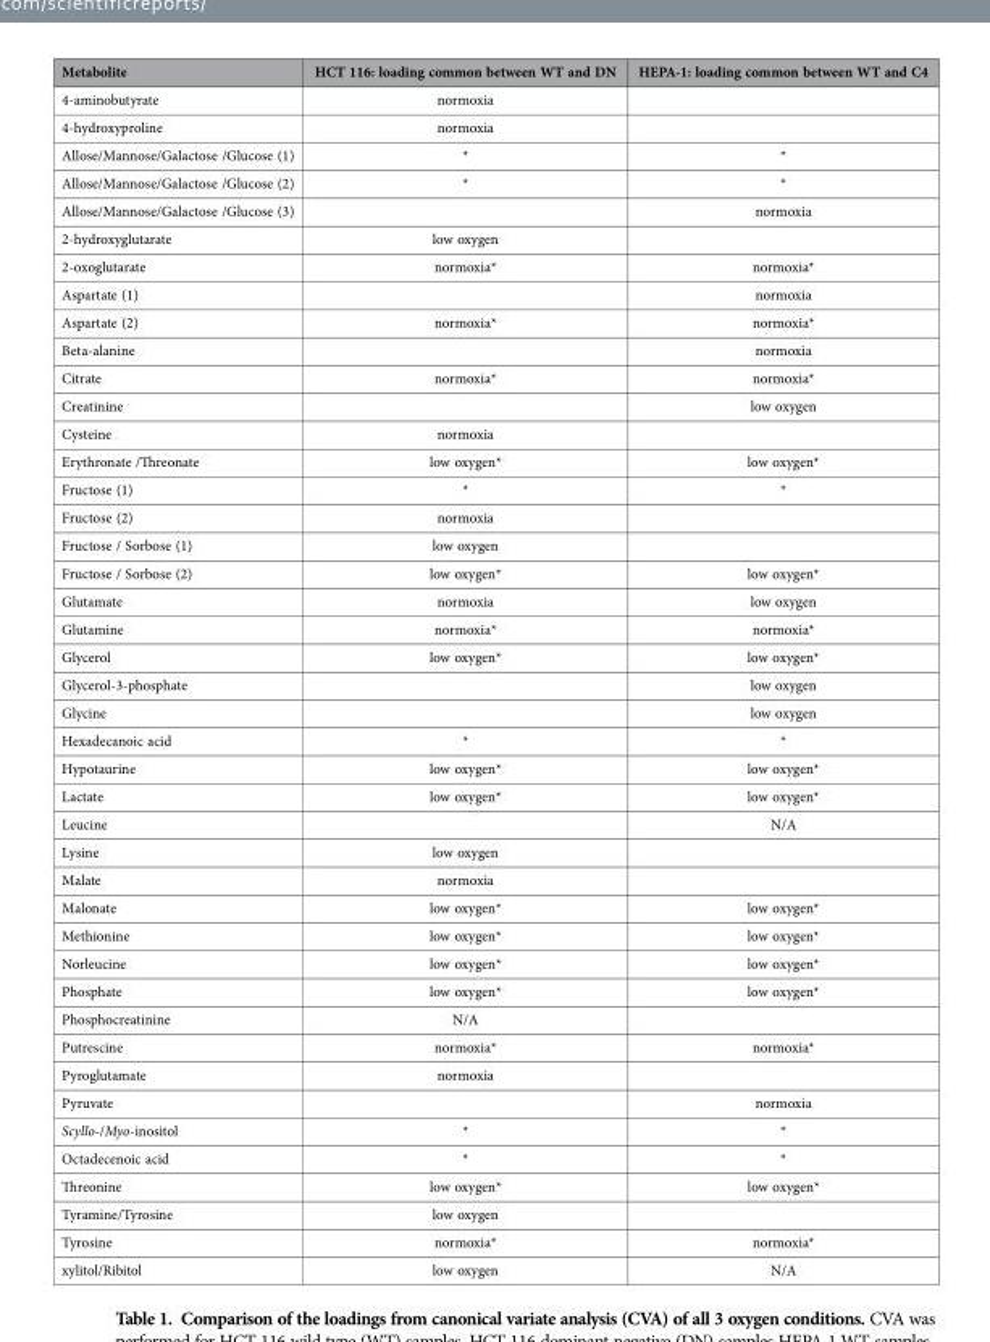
<table><thead><tr><td>Metabolite</td><td>HCT 116: loading common between WT and DN</td><td>HEPA-1: loading common between WT and C4</td></tr></thead><tbody><tr><td>4-aminobutyrate</td><td>normoxia</td><td></td></tr><tr><td>4-hydroxyproline</td><td>normoxia</td><td></td></tr><tr><td>Allose/Mannose/Galactose /Glucose (1)</td><td>*</td><td>*</td></tr><tr><td>Allose/Mannose/Galactose /Glucose (2)</td><td>*</td><td>*</td></tr><tr><td>Allose/Mannose/Galactose /Glucose (3)</td><td></td><td>normoxia</td></tr><tr><td>2-hydroxyglutarate</td><td>low oxygen</td><td></td></tr><tr><td>2-oxoglutarate</td><td>normoxia*</td><td>normoxia*</td></tr><tr><td>Aspartate (1)</td><td></td><td>normoxia</td></tr><tr><td>Aspartate (2)</td><td>normoxia*</td><td>normoxia*</td></tr><tr><td>Beta-alanine</td><td></td><td>normoxia</td></tr><tr><td>Citrate</td><td>normoxia*</td><td>normoxia*</td></tr><tr><td>Creatinine</td><td></td><td>low oxygen</td></tr><tr><td>Cysteine</td><td>normoxia</td><td></td></tr><tr><td>Erythronate /Threonate</td><td>low oxygen*</td><td>low oxygen*</td></tr><tr><td>Fructose (1)</td><td>*</td><td>*</td></tr><tr><td>Fructose (2)</td><td>normoxia</td><td></td></tr><tr><td>Fructose / Sorbose (1)</td><td>low oxygen</td><td></td></tr><tr><td>Fructose / Sorbose (2)</td><td>low oxygen*</td><td>low oxygen*</td></tr><tr><td>Glutamate</td><td>normoxia</td><td>low oxygen</td></tr><tr><td>Glutamine</td><td>normoxia*</td><td>normoxia*</td></tr><tr><td>Glycerol</td><td>low oxygen*</td><td>low oxygen*</td></tr><tr><td>Glycerol-3-phosphate</td><td></td><td>low oxygen</td></tr><tr><td>Glycine</td><td></td><td>low oxygen</td></tr><tr><td>Hexadecanoic acid</td><td>*</td><td>*</td></tr><tr><td>Hypotaurine</td><td>low oxygen*</td><td>low oxygen*</td></tr><tr><td>Lactate</td><td>low oxygen*</td><td>low oxygen*</td></tr><tr><td>Leucine</td><td></td><td>N/A</td></tr><tr><td>Lysine</td><td>low oxygen</td><td></td></tr><tr><td>Malate</td><td>normoxia</td><td></td></tr><tr><td>Malonate</td><td>low oxygen*</td><td>low oxygen*</td></tr><tr><td>Methionine</td><td>low oxygen*</td><td>low oxygen*</td></tr><tr><td>Norleucine</td><td>low oxygen*</td><td>low oxygen*</td></tr><tr><td>Phosphate</td><td>low oxygen*</td><td>low oxygen*</td></tr><tr><td>Phosphocreatinine</td><td>N/A</td><td></td></tr><tr><td>Putrescine</td><td>normoxia*</td><td>normoxia*</td></tr><tr><td>Pyroglutamate</td><td>normoxia</td><td></td></tr><tr><td>Pyruvate</td><td></td><td>normoxia</td></tr><tr><td>Scyllo-/Myo-inositol</td><td>*</td><td>*</td></tr><tr><td>Octadecenoic acid</td><td>*</td><td>*</td></tr><tr><td>Threonine</td><td>low oxygen*</td><td>low oxygen*</td></tr><tr><td>Tyramine/Tyrosine</td><td>low oxygen</td><td></td></tr><tr><td>Tyrosine</td><td>normoxia*</td><td>normoxia*</td></tr><tr><td>xylitol/Ribitol</td><td>low oxygen</td><td>N/A</td></tr></tbody></table>